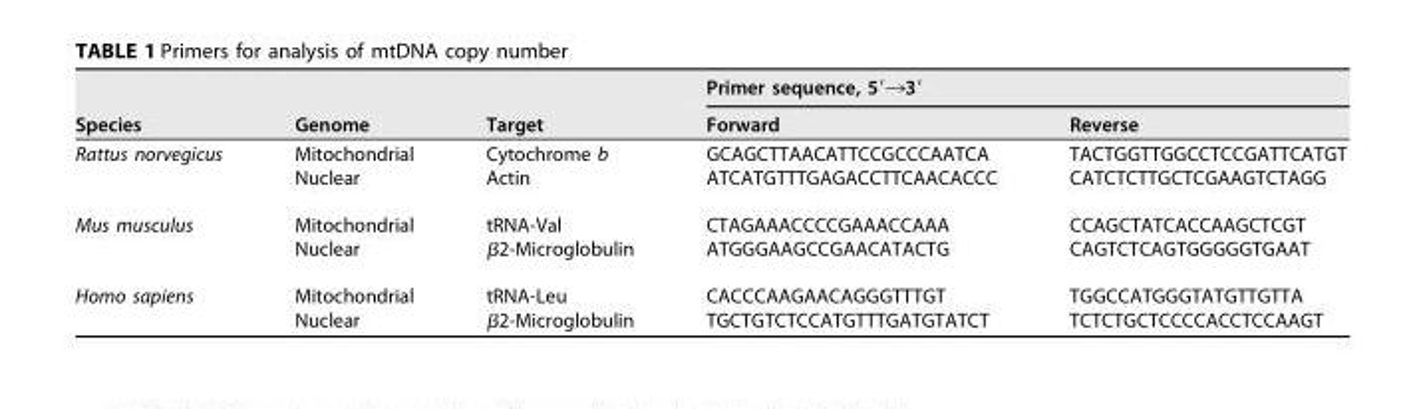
<table><thead><tr><td rowspan="2">Species</td><td rowspan="2">Genome</td><td rowspan="2">Target</td><td colspan="2">Primer sequence, 5=¡3=</td></tr><tr><td>Forward</td><td>Reverse</td></tr></thead><tbody><tr><td rowspan="2">Rattus norvegicus</td><td>Mitochondrial</td><td>Cytochrome b</td><td>GCAGCTTAACATTCCGCCCAATCA</td><td>TACTGGTTGGCCTCCGATTCATGT</td></tr><tr><td>Nuclear</td><td>Actin</td><td>ATCATGTTTGAGACCTTCAACACCC</td><td>CATCTCTTGCTCGAAGTCTAGG</td></tr><tr><td rowspan="2">Mus musculus</td><td>Mitochondrial</td><td>tRNA-Val</td><td>CTAGAAACCCCGAAACCAAA</td><td>CCAGCTATCACCAAGCTCGT</td></tr><tr><td>Nuclear</td><td>β2-Microglobulin</td><td>ATGGGAAGCCGAACATACTG</td><td>CAGTCTCAGTGGGGGTGAAT</td></tr><tr><td rowspan="2">Homo sapiens</td><td>Mitochondrial</td><td>tRNA-Leu</td><td>CACCCAAGAACAGGGTTTGT</td><td>TGGCCATGGGTATGTTGTTA</td></tr><tr><td>Nuclear</td><td>β2-Microglobulin</td><td>TGCTGTCTCCATGTTTGATGTATCT</td><td>TCTCTGCTCCCCACCTCCAAGT</td></tr></tbody></table>